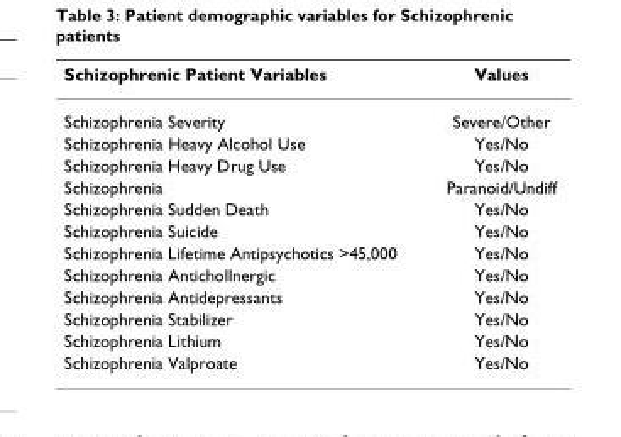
<table><thead><tr><td>Schizophrenic Patient Variables</td><td>Values</td></tr></thead><tbody><tr><td>Schizophrenia Severity</td><td>Severe/Other</td></tr><tr><td>Schizophrenia Heavy Alcohol Use</td><td>Yes/No</td></tr><tr><td>Schizophrenia Heavy Drug Use</td><td>Yes/No</td></tr><tr><td>Schizophrenia</td><td>Paranoid/Undiff</td></tr><tr><td>Schizophrenia Sudden Death</td><td>Yes/No</td></tr><tr><td>Schizophrenia Suicide</td><td>Yes/No</td></tr><tr><td>Schizophrenia Lifetime Antipsychotics &gt;45,000</td><td>Yes/No</td></tr><tr><td>Schizophrenia Antichollnergic</td><td>Yes/No</td></tr><tr><td>Schizophrenia Antidepressants</td><td>Yes/No</td></tr><tr><td>Schizophrenia Stabilizer</td><td>Yes/No</td></tr><tr><td>Schizophrenia Lithium</td><td>Yes/No</td></tr><tr><td>Schizophrenia Valproate</td><td>Yes/No</td></tr></tbody></table>